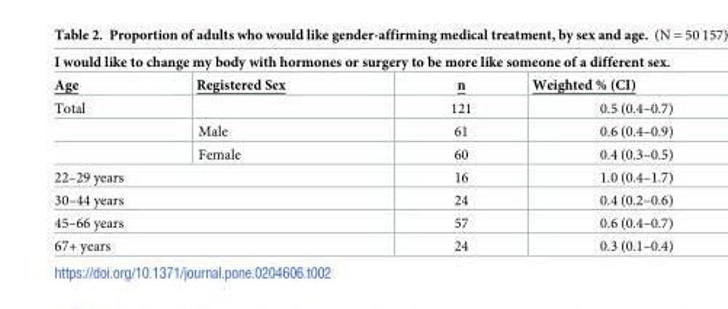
<table><thead><tr><td colspan="4">I would like to change my body with hormones or surgery to be more like someone of a different sex.</td></tr><tr><td>Age</td><td>Registered Sex</td><td>n</td><td>Weighted % (CI)</td></tr></thead><tbody><tr><td rowspan="3">Total</td><td></td><td>121</td><td>0.5 (0.4–0.7)</td></tr><tr><td>Male</td><td>61</td><td>0.6 (0.4–0.9)</td></tr><tr><td>Female</td><td>60</td><td>0.4 (0.3–0.5)</td></tr><tr><td colspan="2">22–29 years</td><td>16</td><td>1.0 (0.4–1.7)</td></tr><tr><td colspan="2">30–44 years</td><td>24</td><td>0.4 (0.2–0.6)</td></tr><tr><td colspan="2">45–66 years</td><td>57</td><td>0.6 (0.4–0.7)</td></tr><tr><td colspan="2">67+ years</td><td>24</td><td>0.3 (0.1–0.4)</td></tr></tbody></table>